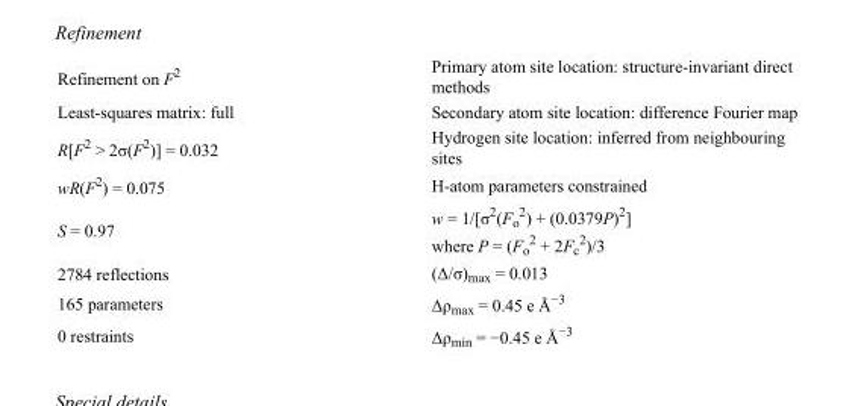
<table><tbody><tr><td>Refinement on F<sup>2</sup></td><td>Primary atom site location: structure-invariant direct methods</td></tr><tr><td>Least-squares matrix: full</td><td>Secondary atom site location: difference Fourier map</td></tr><tr><td>R[F<sup>2</sup> &gt; 2σ(F<sup>2</sup>)] = 0.032</td><td>Hydrogen site location: inferred from neighbouring sites</td></tr><tr><td>wR(F<sup>2</sup>) = 0.075</td><td>H-atom parameters constrained</td></tr><tr><td>S = 0.97</td><td>w = 1/[σ<sup>2</sup>(F<sub>o</sub> <sup>2</sup>) + (0.0379P)<sup>2</sup>] where P = (F<sub>o</sub> <sup>2</sup> + 2F<sub>c</sub> <sup>2</sup>)/3</td></tr><tr><td>2784 reflections</td><td>(Δ/σ)<sub>max</sub> = 0.013</td></tr><tr><td>165 parameters</td><td>Δρ<sub>max</sub> = 0.45 e Å<sup>−3</sup></td></tr><tr><td>0 restraints</td><td>Δρ<sub>min</sub> = −0.45 e Å<sup>−3</sup></td></tr></tbody></table>